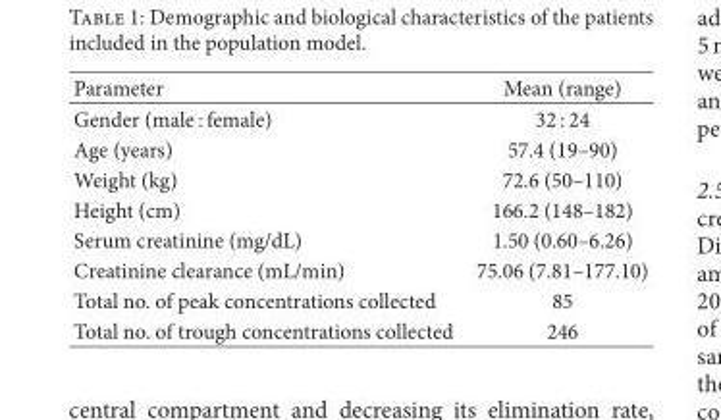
<table><thead><tr><td>Parameter</td><td>Mean (range)</td></tr></thead><tbody><tr><td>Gender (male : female)</td><td>32 : 24</td></tr><tr><td>Age (years)</td><td>57.4 (19–90)</td></tr><tr><td>Weight (kg)</td><td>72.6 (50–110)</td></tr><tr><td>Height (cm)</td><td>166.2 (148–182)</td></tr><tr><td>Serum creatinine (mg/dL)</td><td>1.50 (0.60–6.26)</td></tr><tr><td>Creatinine clearance (mL/min)</td><td>75.06 (7.81–177.10)</td></tr><tr><td>Total no. of peak concentrations collected</td><td>85</td></tr><tr><td>Total no. of trough concentrations collected</td><td>246</td></tr></tbody></table>